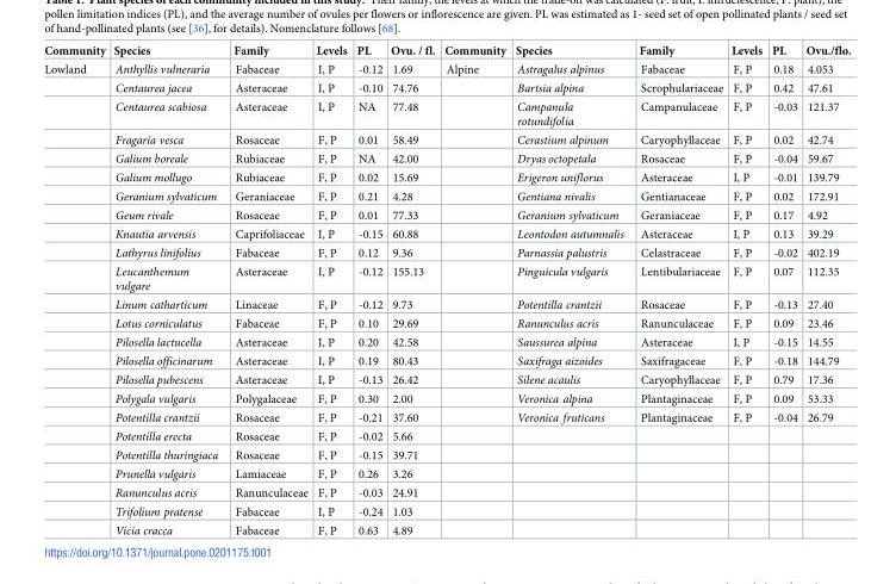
<table><thead><tr><td>Community</td><td>Species</td><td>Family</td><td>Levels</td><td>PL</td><td>Ovu. / fl.</td><td>Community</td><td>Species</td><td>Family</td><td>Levels</td><td>PL</td><td>Ovu./flo.</td></tr></thead><tbody><tr><td rowspan="24">Lowland</td><td>Anthyllis vulneraria</td><td>Fabaceae</td><td>I, P</td><td>-0.12</td><td>1.69</td><td>Alpine</td><td>Astragalus alpinus</td><td>Fabaceae</td><td>F, P</td><td>0.18</td><td>4.053</td></tr><tr><td>Centaurea jacea</td><td>Asteraceae</td><td>I, P</td><td>-0.10</td><td>74.76</td><td></td><td>Bartsia alpina</td><td>Scrophulariaceae</td><td>F, P</td><td>0.42</td><td>47.61</td></tr><tr><td>Centaurea scabiosa</td><td>Asteraceae</td><td>I, P</td><td>NA</td><td>77.48</td><td></td><td>Campanula rotundifolia</td><td>Campanulaceae</td><td>F, P</td><td>-0.03</td><td>121.37</td></tr><tr><td>Fragaria vesca</td><td>Rosaceae</td><td>F, P</td><td>0.01</td><td>58.49</td><td></td><td>Cerastium alpinum</td><td>Caryophyllaceae</td><td>F, P</td><td>0.02</td><td>42.74</td></tr><tr><td>Galium boreale</td><td>Rubiaceae</td><td>F, P</td><td>NA</td><td>42.00</td><td></td><td>Dryas octopetala</td><td>Rosaceae</td><td>F, P</td><td>-0.04</td><td>59.67</td></tr><tr><td>Galium mollugo</td><td>Rubiaceae</td><td>F, P</td><td>0.02</td><td>15.69</td><td></td><td>Erigeron uniflorus</td><td>Asteraceae</td><td>I, P</td><td>-0.01</td><td>139.79</td></tr><tr><td>Geranium sylvaticum</td><td>Geraniaceae</td><td>F, P</td><td>0.21</td><td>4.28</td><td></td><td>Gentiana nivalis</td><td>Gentianaceae</td><td>F, P</td><td>0.02</td><td>172.91</td></tr><tr><td>Geum rivale</td><td>Rosaceae</td><td>F, P</td><td>0.01</td><td>77.33</td><td></td><td>Geranium sylvaticum</td><td>Geraniaceae</td><td>F, P</td><td>0.17</td><td>4.92</td></tr><tr><td>Knautia arvensis</td><td>Caprifoliaceae</td><td>I, P</td><td>-0.15</td><td>60.88</td><td></td><td>Leontodon autumnalis</td><td>Asteraceae</td><td>I, P</td><td>0.13</td><td>39.29</td></tr><tr><td>Lathyrus linifolius</td><td>Fabaceae</td><td>F, P</td><td>0.12</td><td>9.36</td><td></td><td>Parnassia palustris</td><td>Celastraceae</td><td>F, P</td><td>-0.02</td><td>402.19</td></tr><tr><td>Leucanthemum vulgare</td><td>Asteraceae</td><td>I, P</td><td>-0.12</td><td>155.13</td><td></td><td>Pinguicula vulgaris</td><td>Lentibulariaceae</td><td>F, P</td><td>0.07</td><td>112.35</td></tr><tr><td>Linum catharticum</td><td>Linaceae</td><td>F, P</td><td>-0.12</td><td>9.73</td><td></td><td>Potentilla crantzii</td><td>Rosaceae</td><td>F, P</td><td>-0.13</td><td>27.40</td></tr><tr><td>Lotus corniculatus</td><td>Fabaceae</td><td>F, P</td><td>0.10</td><td>29.69</td><td></td><td>Ranunculus acris</td><td>Ranunculaceae</td><td>F, P</td><td>0.09</td><td>23.46</td></tr><tr><td>Pilosella lactucella</td><td>Asteraceae</td><td>I, P</td><td>0.20</td><td>42.58</td><td></td><td>Saussurea alpina</td><td>Asteraceae</td><td>I, P</td><td>-0.15</td><td>14.55</td></tr><tr><td>Pilosella officinarum</td><td>Asteraceae</td><td>I, P</td><td>0.19</td><td>80.43</td><td></td><td>Saxifraga aizoides</td><td>Saxifragaceae</td><td>F, P</td><td>-0.18</td><td>144.79</td></tr><tr><td>Pilosella pubescens</td><td>Asteraceae</td><td>I, P</td><td>-0.13</td><td>26.42</td><td></td><td>Silene acaulis</td><td>Caryophyllaceae</td><td>F, P</td><td>0.79</td><td>17.36</td></tr><tr><td>Polygala vulgaris</td><td>Polygalaceae</td><td>F, P</td><td>0.30</td><td>2.00</td><td></td><td>Veronica alpina</td><td>Plantaginaceae</td><td>F, P</td><td>0.09</td><td>53.33</td></tr><tr><td>Potentilla crantzii</td><td>Rosaceae</td><td>F, P</td><td>-0.21</td><td>37.60</td><td></td><td>Veronica fruticans</td><td>Plantaginaceae</td><td>F, P</td><td>-0.04</td><td>26.79</td></tr><tr><td>Potentilla erecta</td><td>Rosaceae</td><td>F, P</td><td>-0.02</td><td>5.66</td><td></td><td></td><td></td><td></td><td></td><td></td></tr><tr><td>Potentilla thuringiaca</td><td>Rosaceae</td><td>F, P</td><td>-0.15</td><td>39.71</td><td></td><td></td><td></td><td></td><td></td><td></td></tr><tr><td>Prunella vulgaris</td><td>Lamiaceae</td><td>F, P</td><td>0.26</td><td>3.26</td><td></td><td></td><td></td><td></td><td></td><td></td></tr><tr><td>Ranunculus acris</td><td>Ranunculaceae</td><td>F, P</td><td>-0.03</td><td>24.91</td><td></td><td></td><td></td><td></td><td></td><td></td></tr><tr><td>Trifolium pratense</td><td>Fabaceae</td><td>I, P</td><td>-0.24</td><td>1.03</td><td></td><td></td><td></td><td></td><td></td><td></td></tr><tr><td>Vicia cracca</td><td>Fabaceae</td><td>F, P</td><td>0.63</td><td>4.89</td><td></td><td></td><td></td><td></td><td></td><td></td></tr></tbody></table>